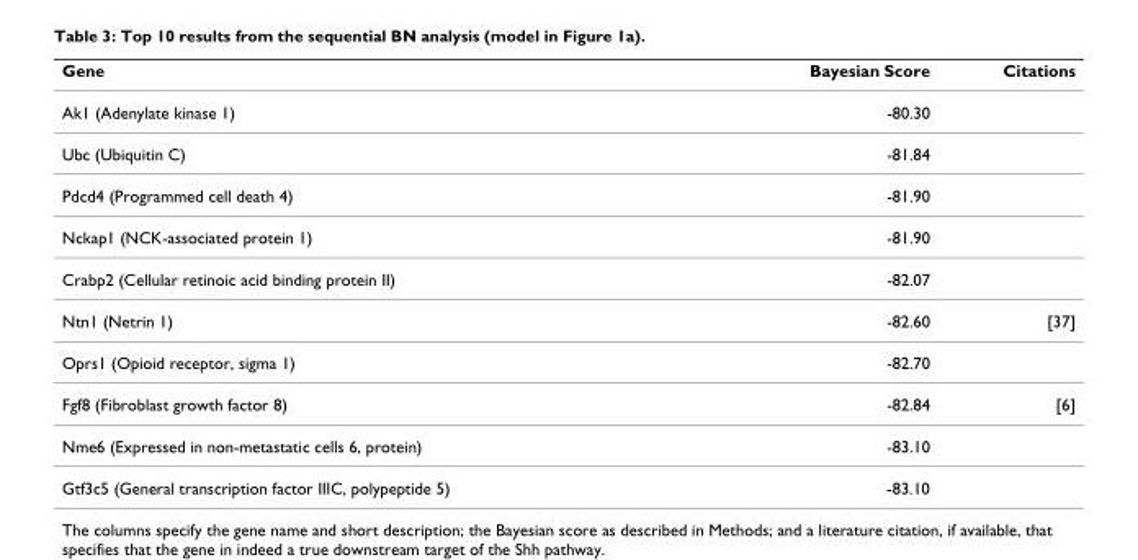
<table><thead><tr><td>Gene</td><td>Bayesian Score</td><td>Citations</td></tr></thead><tbody><tr><td>Ak1 (Adenylate kinase 1)</td><td>-80.30</td><td></td></tr><tr><td>Ubc (Ubiquitin C)</td><td>-81.84</td><td></td></tr><tr><td>Pdcd4 (Programmed cell death 4)</td><td>-81.90</td><td></td></tr><tr><td>Nckap1 (NCK-associated protein 1)</td><td>-81.90</td><td></td></tr><tr><td>Crabp2 (Cellular retinoic acid binding protein II)</td><td>-82.07</td><td></td></tr><tr><td>Ntn1 (Netrin 1)</td><td>-82.60</td><td>[37]</td></tr><tr><td>Oprs1 (Opioid receptor, sigma 1)</td><td>-82.70</td><td></td></tr><tr><td>Fgf8 (Fibroblast growth factor 8)</td><td>-82.84</td><td>[6]</td></tr><tr><td>Nme6 (Expressed in non-metastatic cells 6, protein)</td><td>-83.10</td><td></td></tr><tr><td>Gtf3c5 (General transcription factor IIIC, polypeptide 5)</td><td>-83.10</td><td></td></tr></tbody></table>